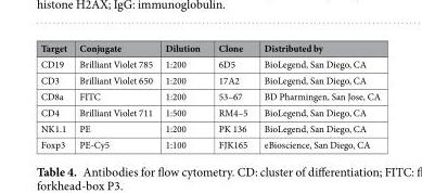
<table><thead><tr><td>Target</td><td>Conjugate</td><td>Dilution</td><td>Clone</td><td>Distributed by</td></tr></thead><tbody><tr><td>CD19</td><td>Brilliant Violet 785</td><td>1:200</td><td>6D5</td><td>BioLegend, San Diego, CA</td></tr><tr><td>CD3</td><td>Brilliant Violet 650</td><td>1:200</td><td>17A2</td><td>BioLegend, San Diego, CA</td></tr><tr><td>CD8a</td><td>FITC</td><td>1:200</td><td>53–67</td><td>BD Pharmingen, San Jose, CA</td></tr><tr><td>CD4</td><td>Brilliant Violet 711</td><td>1:500</td><td>RM4–5</td><td>BioLegend, San Diego, CA</td></tr><tr><td>NK1.1</td><td>PE</td><td>1:200</td><td>PK 136</td><td>BioLegend, San Diego, CA</td></tr><tr><td>Foxp3</td><td>PE-Cy5</td><td>1:100</td><td>FJK165</td><td>eBioscience, San Diego, CA</td></tr></tbody></table>